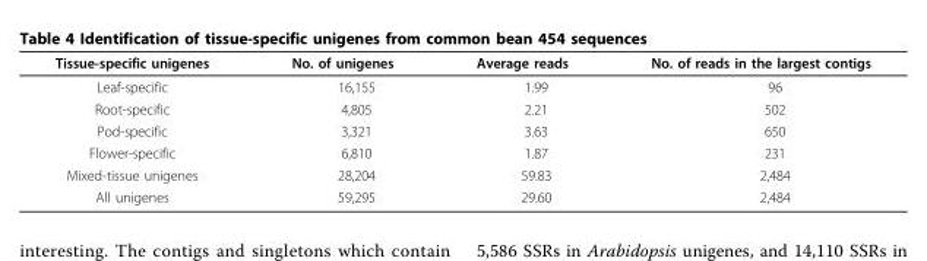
<table><thead><tr><td>Tissue-specific unigenes</td><td>No. of unigenes</td><td>Average reads</td><td>No. of reads in the largest contigs</td></tr></thead><tbody><tr><td>Leaf-specific</td><td>16,155</td><td>1.99</td><td>96</td></tr><tr><td>Root-specific</td><td>4,805</td><td>2.21</td><td>502</td></tr><tr><td>Pod-specific</td><td>3,321</td><td>3.63</td><td>650</td></tr><tr><td>Flower-specific</td><td>6,810</td><td>1.87</td><td>231</td></tr><tr><td>Mixed-tissue unigenes</td><td>28,204</td><td>59.83</td><td>2,484</td></tr><tr><td>All unigenes</td><td>59,295</td><td>29.60</td><td>2,484</td></tr></tbody></table>